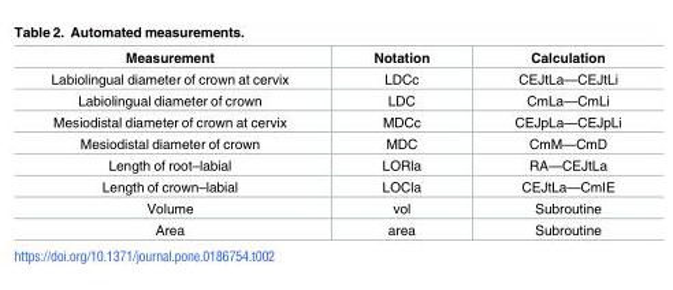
<table><thead><tr><td>Measurement</td><td>Notation</td><td>Calculation</td></tr></thead><tbody><tr><td>Labiolingual diameter of crown at cervix</td><td>LDCc</td><td>CEJtLa—CEJtLi</td></tr><tr><td>Labiolingual diameter of crown</td><td>LDC</td><td>CmLa—CmLi</td></tr><tr><td>Mesiodistal diameter of crown at cervix</td><td>MDCc</td><td>CEJpLa—CEJpLi</td></tr><tr><td>Mesiodistal diameter of crown</td><td>MDC</td><td>CmM—CmD</td></tr><tr><td>Length of root–labial</td><td>LORla</td><td>RA—CEJtLa</td></tr><tr><td>Length of crown–labial</td><td>LOCla</td><td>CEJtLa—CmIE</td></tr><tr><td>Volume</td><td>vol</td><td>Subroutine</td></tr><tr><td>Area</td><td>area</td><td>Subroutine</td></tr></tbody></table>